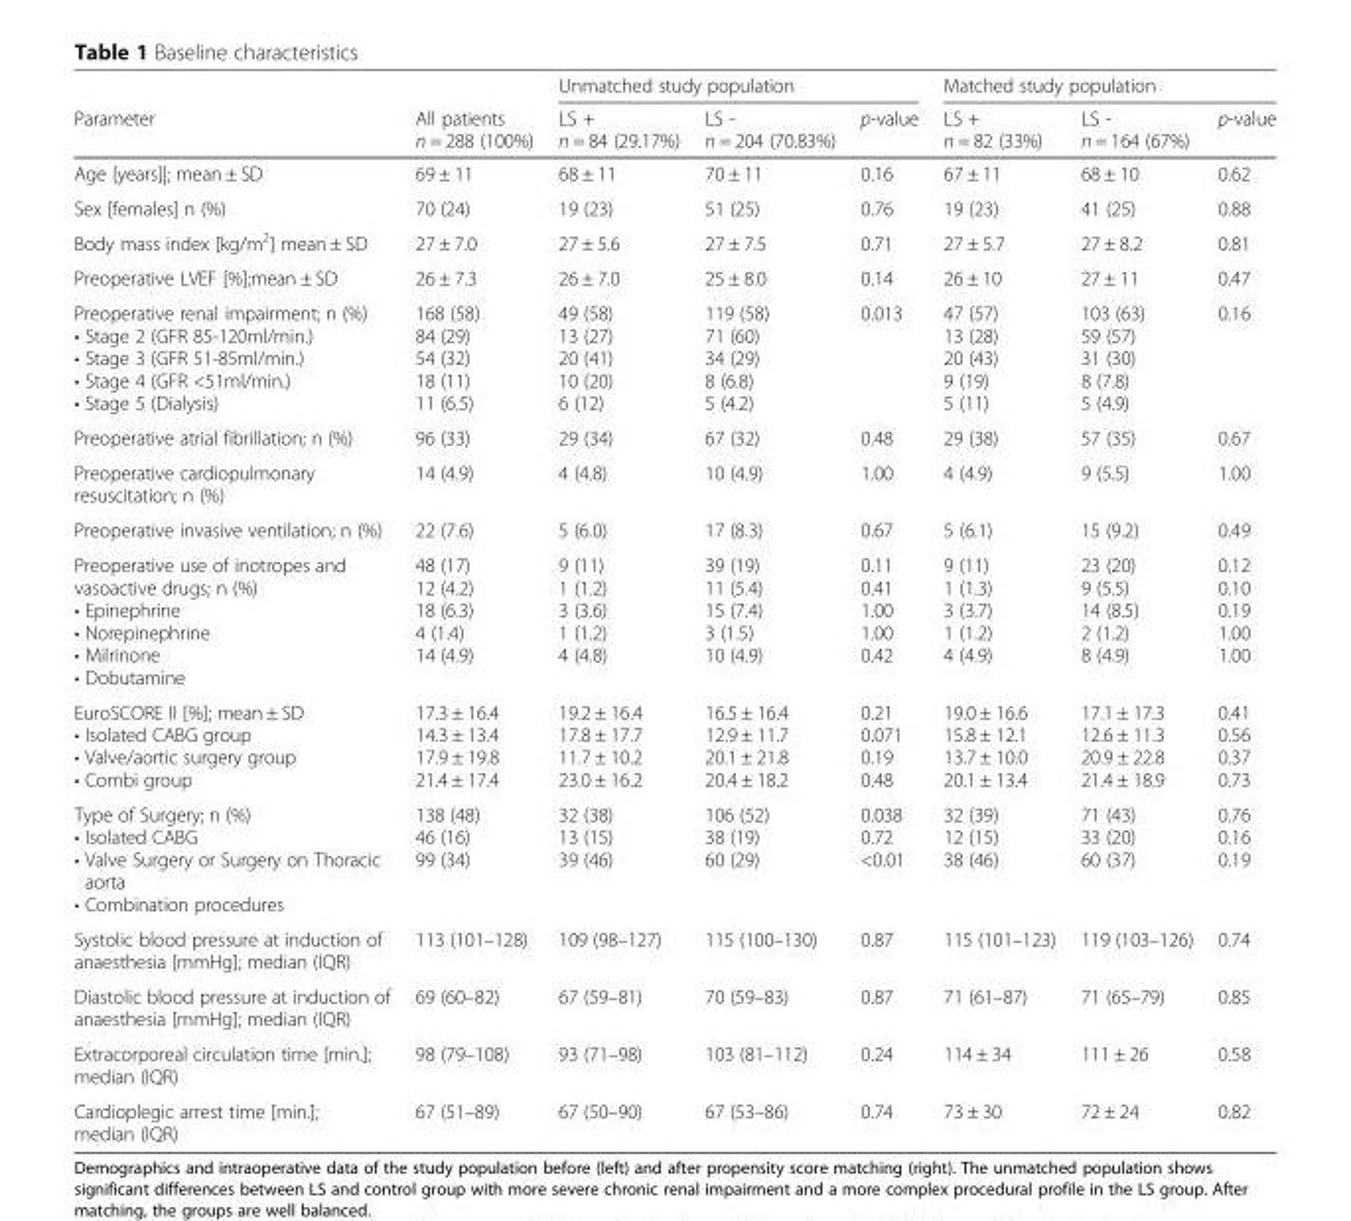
<table><thead><tr><td rowspan="2">Parameter</td><td rowspan="2">All patients n = 288 (100%)</td><td colspan="3">Unmatched study population</td><td colspan="3">Matched study population</td></tr><tr><td>LS + n = 84 (29.17%)</td><td>LS - n = 204 (70.83%)</td><td>p-value</td><td>LS + n = 82 (33%)</td><td>LS - n = 164 (67%)</td><td>p-value</td></tr></thead><tbody><tr><td>Age [years]|; mean ± SD</td><td>69 ± 11</td><td>68 ± 11</td><td>70 ± 11</td><td>0.16</td><td>67 ± 11</td><td>68 ± 10</td><td>0.62</td></tr><tr><td>Sex [females] n (%)</td><td>70 (24)</td><td>19 (23)</td><td>51 (25)</td><td>0.76</td><td>19 (23)</td><td>41 (25)</td><td>0.88</td></tr><tr><td>Body mass index [kg/m<sup>2</sup>] mean ± SD</td><td>27 ± 7.0</td><td>27 ± 5.6</td><td>27 ± 7.5</td><td>0.71</td><td>27 ± 5.7</td><td>27 ± 8.2</td><td>0.81</td></tr><tr><td>Preoperative LVEF [%];mean ± SD</td><td>26 ± 7.3</td><td>26 ± 7.0</td><td>25 ± 8.0</td><td>0.14</td><td>26 ± 10</td><td>27 ± 11</td><td>0.47</td></tr><tr><td>Preoperative renal impairment; n (%) • Stage 2 (GFR 85-120ml/min.) • Stage 3 (GFR 51-85ml/min.) • Stage 4 (GFR &lt;51ml/min.) • Stage 5 (Dialysis)</td><td>168 (58) 84 (29) 54 (32) 18 (11) 11 (6.5)</td><td>49 (58) 13 (27) 20 (41) 10 (20) 6 (12)</td><td>119 (58) 71 (60) 34 (29) 8 (6.8) 5 (4.2)</td><td>0.013</td><td>47 (57) 13 (28) 20 (43) 9 (19) 5 (11)</td><td>103 (63) 59 (57) 31 (30) 8 (7.8) 5 (4.9)</td><td>0.16</td></tr><tr><td>Preoperative atrial fibrillation; n (%)</td><td>96 (33)</td><td>29 (34)</td><td>67 (32)</td><td>0.48</td><td>29 (38)</td><td>57 (35)</td><td>0.67</td></tr><tr><td>Preoperative cardiopulmonary resuscitation; n (%)</td><td>14 (4.9)</td><td>4 (4.8)</td><td>10 (4.9)</td><td>1.00</td><td>4 (4.9)</td><td>9 (5.5)</td><td>1.00</td></tr><tr><td>Preoperative invasive ventilation; n (%)</td><td>22 (7.6)</td><td>5 (6.0)</td><td>17 (8.3)</td><td>0.67</td><td>5 (6.1)</td><td>15 (9.2)</td><td>0.49</td></tr><tr><td>Preoperative use of inotropes and vasoactive drugs; n (%) • Epinephrine • Norepinephrine • Milrinone • Dobutamine</td><td>48 (17) 12 (4.2) 18 (6.3) 4 (1.4) 14 (4.9)</td><td>9 (11) 1 (1.2) 3 (3.6) 1 (1.2) 4 (4.8)</td><td>39 (19) 11 (5.4) 15 (7.4) 3 (1.5) 10 (4.9)</td><td>0.11 0.41 1.00 1.00 0.42</td><td>9 (11) 1 (1.3) 3 (3.7) 1 (1.2) 4 (4.9)</td><td>23 (20) 9 (5.5) 14 (8.5) 2 (1.2) 8 (4.9)</td><td>0.12 0.10 0.19 1.00 1.00</td></tr><tr><td>EuroSCORE II [%]; mean ± SD • Isolated CABG group • Valve/aortic surgery group • Combi group</td><td>17.3 ± 16.4 14.3 ± 13.4 17.9 ± 19.8 21.4 ± 17.4</td><td>19.2 ± 16.4 17.8 ± 17.7 11.7 ± 10.2 23.0 ± 16.2</td><td>16.5 ± 16.4 12.9 ± 11.7 20.1 ± 21.8 20.4 ± 18.2</td><td>0.21 0.071 0.19 0.48</td><td>19.0 ± 16.6 15.8 ± 12.1 13.7 ± 10.0 20.1 ± 13.4</td><td>17.1 ± 17.3 12.6 ± 11.3 20.9 ± 22.8 21.4 ± 18.9</td><td>0.41 0.56 0.37 0.73</td></tr><tr><td>Type of Surgery; n (%) • Isolated CABG • Valve Surgery or Surgery on Thoracic aorta • Combination procedures</td><td>138 (48) 46 (16) 99 (34)</td><td>32 (38) 13 (15) 39 (46)</td><td>106 (52) 38 (19) 60 (29)</td><td>0.038 0.72 &lt;0.01</td><td>32 (39) 12 (15) 38 (46)</td><td>71 (43) 33 (20) 60 (37)</td><td>0.76 0.16 0.19</td></tr><tr><td>Systolic blood pressure at induction of anaesthesia [mmHg]; median (IQR)</td><td>113 (101–128)</td><td>109 (98–127)</td><td>115 (100–130)</td><td>0.87</td><td>115 (101–123)</td><td>119 (103–126)</td><td>0.74</td></tr><tr><td>Diastolic blood pressure at induction of anaesthesia [mmHg]; median (IQR)</td><td>69 (60–82)</td><td>67 (59–81)</td><td>70 (59–83)</td><td>0.87</td><td>71 (61–87)</td><td>71 (65–79)</td><td>0.85</td></tr><tr><td>Extracorporeal circulation time [min.]; median (IQR)</td><td>98 (79–108)</td><td>93 (71–98)</td><td>103 (81–112)</td><td>0.24</td><td>114 ± 34</td><td>111 ± 26</td><td>0.58</td></tr><tr><td>Cardioplegic arrest time [min.]; median (IQR)</td><td>67 (51–89)</td><td>67 (50–90)</td><td>67 (53–86)</td><td>0.74</td><td>73 ± 30</td><td>72 ± 24</td><td>0.82</td></tr></tbody></table>